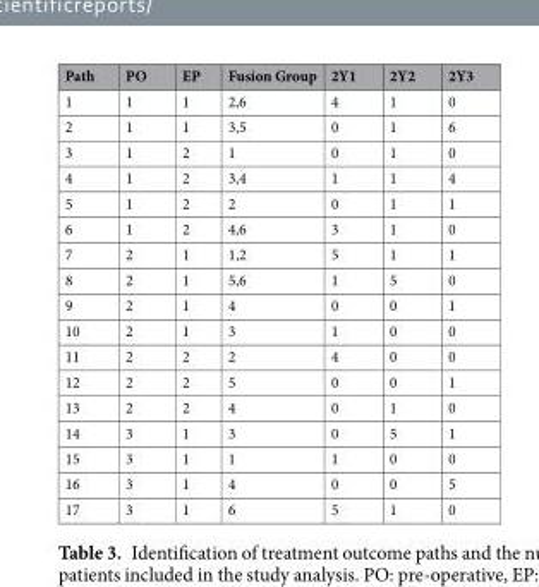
<table><thead><tr><td>Path</td><td>PO</td><td>EP</td><td>Fusion Group</td><td>2Y1</td><td>2Y2</td><td>2Y3</td></tr></thead><tbody><tr><td>1</td><td>1</td><td>1</td><td>2,6</td><td>4</td><td>1</td><td>0</td></tr><tr><td>2</td><td>1</td><td>1</td><td>3,5</td><td>0</td><td>1</td><td>6</td></tr><tr><td>3</td><td>1</td><td>2</td><td>1</td><td>0</td><td>1</td><td>0</td></tr><tr><td>4</td><td>1</td><td>2</td><td>3,4</td><td>1</td><td>1</td><td>4</td></tr><tr><td>5</td><td>1</td><td>2</td><td>2</td><td>0</td><td>1</td><td>1</td></tr><tr><td>6</td><td>1</td><td>2</td><td>4,6</td><td>3</td><td>1</td><td>0</td></tr><tr><td>7</td><td>2</td><td>1</td><td>1,2</td><td>5</td><td>1</td><td>1</td></tr><tr><td>8</td><td>2</td><td>1</td><td>5,6</td><td>1</td><td>5</td><td>0</td></tr><tr><td>9</td><td>2</td><td>1</td><td>4</td><td>0</td><td>0</td><td>1</td></tr><tr><td>10</td><td>2</td><td>1</td><td>3</td><td>1</td><td>0</td><td>0</td></tr><tr><td>11</td><td>2</td><td>2</td><td>2</td><td>4</td><td>0</td><td>0</td></tr><tr><td>12</td><td>2</td><td>2</td><td>5</td><td>0</td><td>0</td><td>1</td></tr><tr><td>13</td><td>2</td><td>2</td><td>4</td><td>0</td><td>1</td><td>0</td></tr><tr><td>14</td><td>3</td><td>1</td><td>3</td><td>0</td><td>5</td><td>1</td></tr><tr><td>15</td><td>3</td><td>1</td><td>1</td><td>1</td><td>0</td><td>0</td></tr><tr><td>16</td><td>3</td><td>1</td><td>4</td><td>0</td><td>0</td><td>5</td></tr><tr><td>17</td><td>3</td><td>1</td><td>6</td><td>5</td><td>1</td><td>0</td></tr></tbody></table>